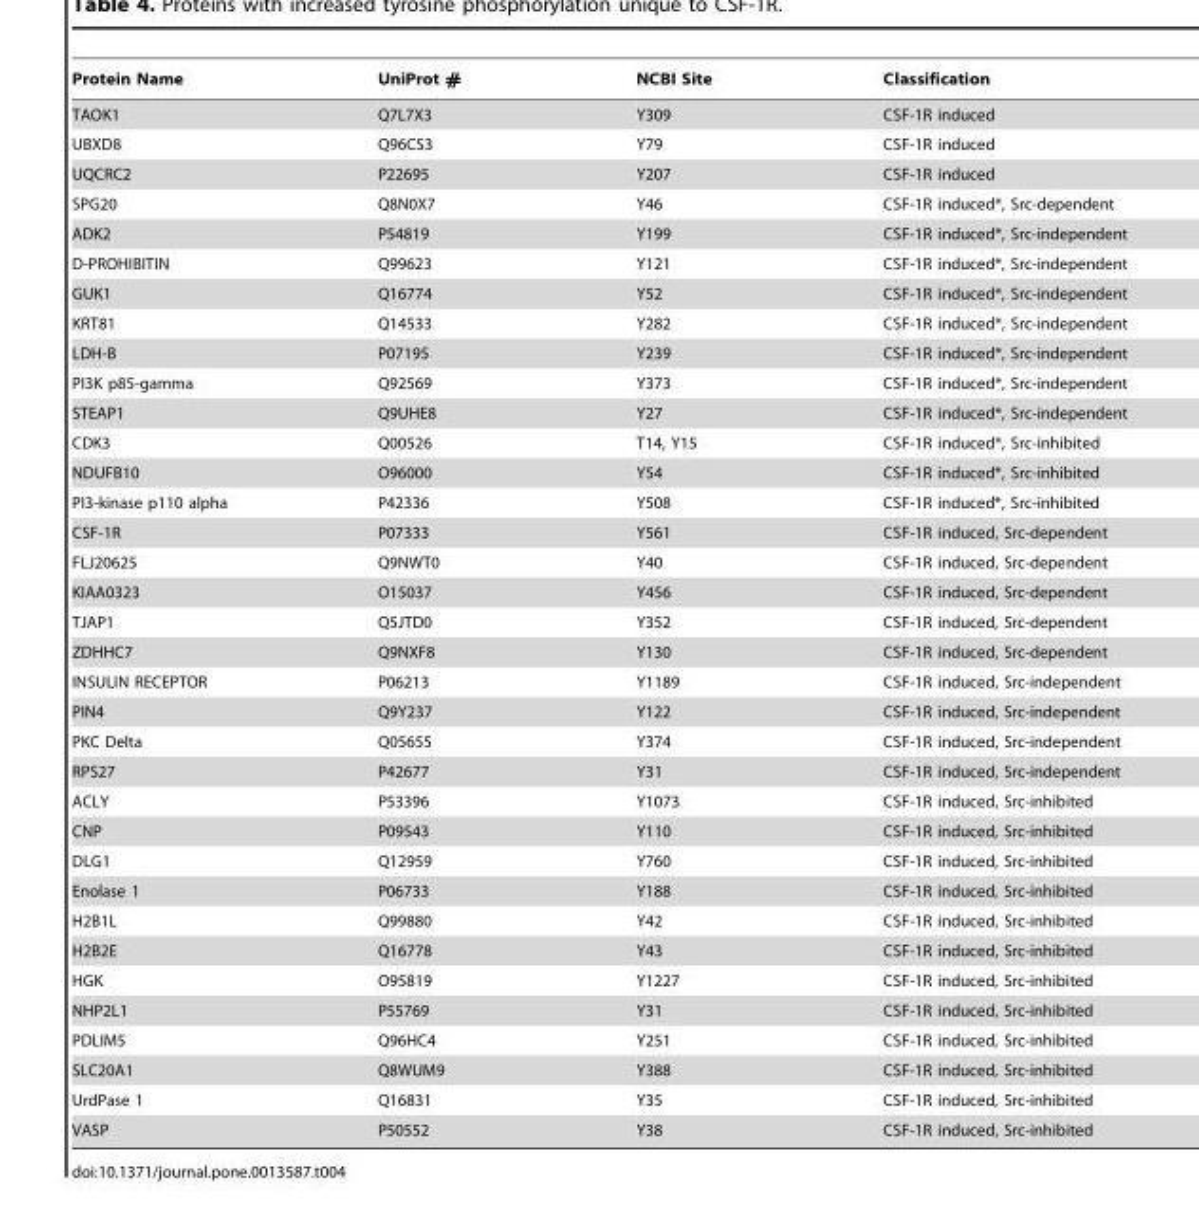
<table><thead><tr><td>Protein Name</td><td>UniProt #</td><td>NCBI Site</td><td>Classification</td></tr></thead><tbody><tr><td>TAOK1</td><td>Q7L7X3</td><td>Y309</td><td>CSF-1R induced</td></tr><tr><td>UBXD8</td><td>Q96CS3</td><td>Y79</td><td>CSF-1R induced</td></tr><tr><td>UQCRC2</td><td>P22695</td><td>Y207</td><td>CSF-1R induced</td></tr><tr><td>SPG20</td><td>Q8N0X7</td><td>Y46</td><td>CSF-1R induced*, Src-dependent</td></tr><tr><td>ADK2</td><td>P54819</td><td>Y199</td><td>CSF-1R induced*, Src-independent</td></tr><tr><td>D-PROHIBITIN</td><td>Q99623</td><td>Y121</td><td>CSF-1R induced*, Src-independent</td></tr><tr><td>GUK1</td><td>Q16774</td><td>Y52</td><td>CSF-1R induced*, Src-independent</td></tr><tr><td>KRT81</td><td>Q14533</td><td>Y282</td><td>CSF-1R induced*, Src-independent</td></tr><tr><td>LDH-B</td><td>P07195</td><td>Y239</td><td>CSF-1R induced*, Src-independent</td></tr><tr><td>PI3K p85-gamma</td><td>Q92569</td><td>Y373</td><td>CSF-1R induced*, Src-independent</td></tr><tr><td>STEAP1</td><td>Q9UHE8</td><td>Y27</td><td>CSF-1R induced*, Src-independent</td></tr><tr><td>CDK3</td><td>Q00526</td><td>T14, Y15</td><td>CSF-1R induced*, Src-inhibited</td></tr><tr><td>NDUFB10</td><td>O96000</td><td>Y54</td><td>CSF-1R induced*, Src-inhibited</td></tr><tr><td>PI3-kinase p110 alpha</td><td>P42336</td><td>Y508</td><td>CSF-1R induced*, Src-inhibited</td></tr><tr><td>CSF-1R</td><td>P07333</td><td>Y561</td><td>CSF-1R induced, Src-dependent</td></tr><tr><td>FLJ20625</td><td>Q9NWT0</td><td>Y40</td><td>CSF-1R induced, Src-dependent</td></tr><tr><td>KIAA0323</td><td>O15037</td><td>Y456</td><td>CSF-1R induced, Src-dependent</td></tr><tr><td>TJAP1</td><td>Q5JTD0</td><td>Y352</td><td>CSF-1R induced, Src-dependent</td></tr><tr><td>ZDHHC7</td><td>Q9NXF8</td><td>Y130</td><td>CSF-1R induced, Src-dependent</td></tr><tr><td>INSULIN RECEPTOR</td><td>P06213</td><td>Y1189</td><td>CSF-1R induced, Src-independent</td></tr><tr><td>PIN4</td><td>Q9Y237</td><td>Y122</td><td>CSF-1R induced, Src-independent</td></tr><tr><td>PKC Delta</td><td>Q05655</td><td>Y374</td><td>CSF-1R induced, Src-independent</td></tr><tr><td>RPS27</td><td>P42677</td><td>Y31</td><td>CSF-1R induced, Src-independent</td></tr><tr><td>ACLY</td><td>P53396</td><td>Y1073</td><td>CSF-1R induced, Src-inhibited</td></tr><tr><td>CNP</td><td>P09543</td><td>Y110</td><td>CSF-1R induced, Src-inhibited</td></tr><tr><td>DLG1</td><td>Q12959</td><td>Y760</td><td>CSF-1R induced, Src-inhibited</td></tr><tr><td>Enolase 1</td><td>P06733</td><td>Y188</td><td>CSF-1R induced, Src-inhibited</td></tr><tr><td>H2B1L</td><td>Q99880</td><td>Y42</td><td>CSF-1R induced, Src-inhibited</td></tr><tr><td>H2B2E</td><td>Q16778</td><td>Y43</td><td>CSF-1R induced, Src-inhibited</td></tr><tr><td>HGK</td><td>O95819</td><td>Y1227</td><td>CSF-1R induced, Src-inhibited</td></tr><tr><td>NHP2L1</td><td>P55769</td><td>Y31</td><td>CSF-1R induced, Src-inhibited</td></tr><tr><td>PDLIM5</td><td>Q96HC4</td><td>Y251</td><td>CSF-1R induced, Src-inhibited</td></tr><tr><td>SLC20A1</td><td>Q8WUM9</td><td>Y388</td><td>CSF-1R induced, Src-inhibited</td></tr><tr><td>UrdPase 1</td><td>Q16831</td><td>Y35</td><td>CSF-1R induced, Src-inhibited</td></tr><tr><td>VASP</td><td>P50552</td><td>Y38</td><td>CSF-1R induced, Src-inhibited</td></tr></tbody></table>